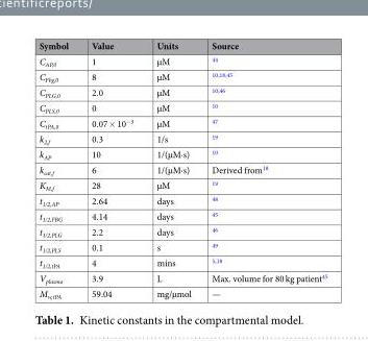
<table><thead><tr><td>Symbol</td><td>Value</td><td>Units</td><td>Source</td></tr></thead><tbody><tr><td>C<sub>AP,0</sub></td><td>1</td><td>µM</td><td><sup>44</sup></td></tr><tr><td>C<sub>Fbg,0</sub></td><td>8</td><td>µM</td><td><sup>10,18,45</sup></td></tr><tr><td>C<sub>PLG,0</sub></td><td>2.0</td><td>µM</td><td><sup>10,46</sup></td></tr><tr><td>C<sub>PLS,0</sub></td><td>0</td><td>µM</td><td><sup>10</sup></td></tr><tr><td>C<sub>tPA,0</sub></td><td>0.07 × 10<sup>−3</sup></td><td>µM</td><td><sup>47</sup></td></tr><tr><td>k<sub>2,f</sub></td><td>0.3</td><td>1/s</td><td><sup>19</sup></td></tr><tr><td>k<sub>AP</sub></td><td>10</td><td>1/(µM∙s)</td><td><sup>10</sup></td></tr><tr><td>k<sub>cat,f</sub></td><td>6</td><td>1/(µM∙s)</td><td>Derived from<sup>18</sup></td></tr><tr><td>K<sub>M,f</sub></td><td>28</td><td>µM</td><td><sup>19</sup></td></tr><tr><td>t<sub>1/2,AP</sub></td><td>2.64</td><td>days</td><td><sup>48</sup></td></tr><tr><td>t<sub>1/2,FBG</sub></td><td>4.14</td><td>days</td><td><sup>45</sup></td></tr><tr><td>t<sub>1/2,PLG</sub></td><td>2.2</td><td>days</td><td><sup>46</sup></td></tr><tr><td>t<sub>1/2,PLS</sub></td><td>0.1</td><td>s</td><td><sup>49</sup></td></tr><tr><td>t<sub>1/2,tPA</sub></td><td>4</td><td>mins</td><td><sup>5,18</sup></td></tr><tr><td>V<sub>plasma</sub></td><td>3.9</td><td>L</td><td>Max. volume for 80 kg patient<sup>45</sup></td></tr><tr><td>M<sub>w,tPA</sub></td><td>59.04</td><td>mg/µmol</td><td>—</td></tr></tbody></table>